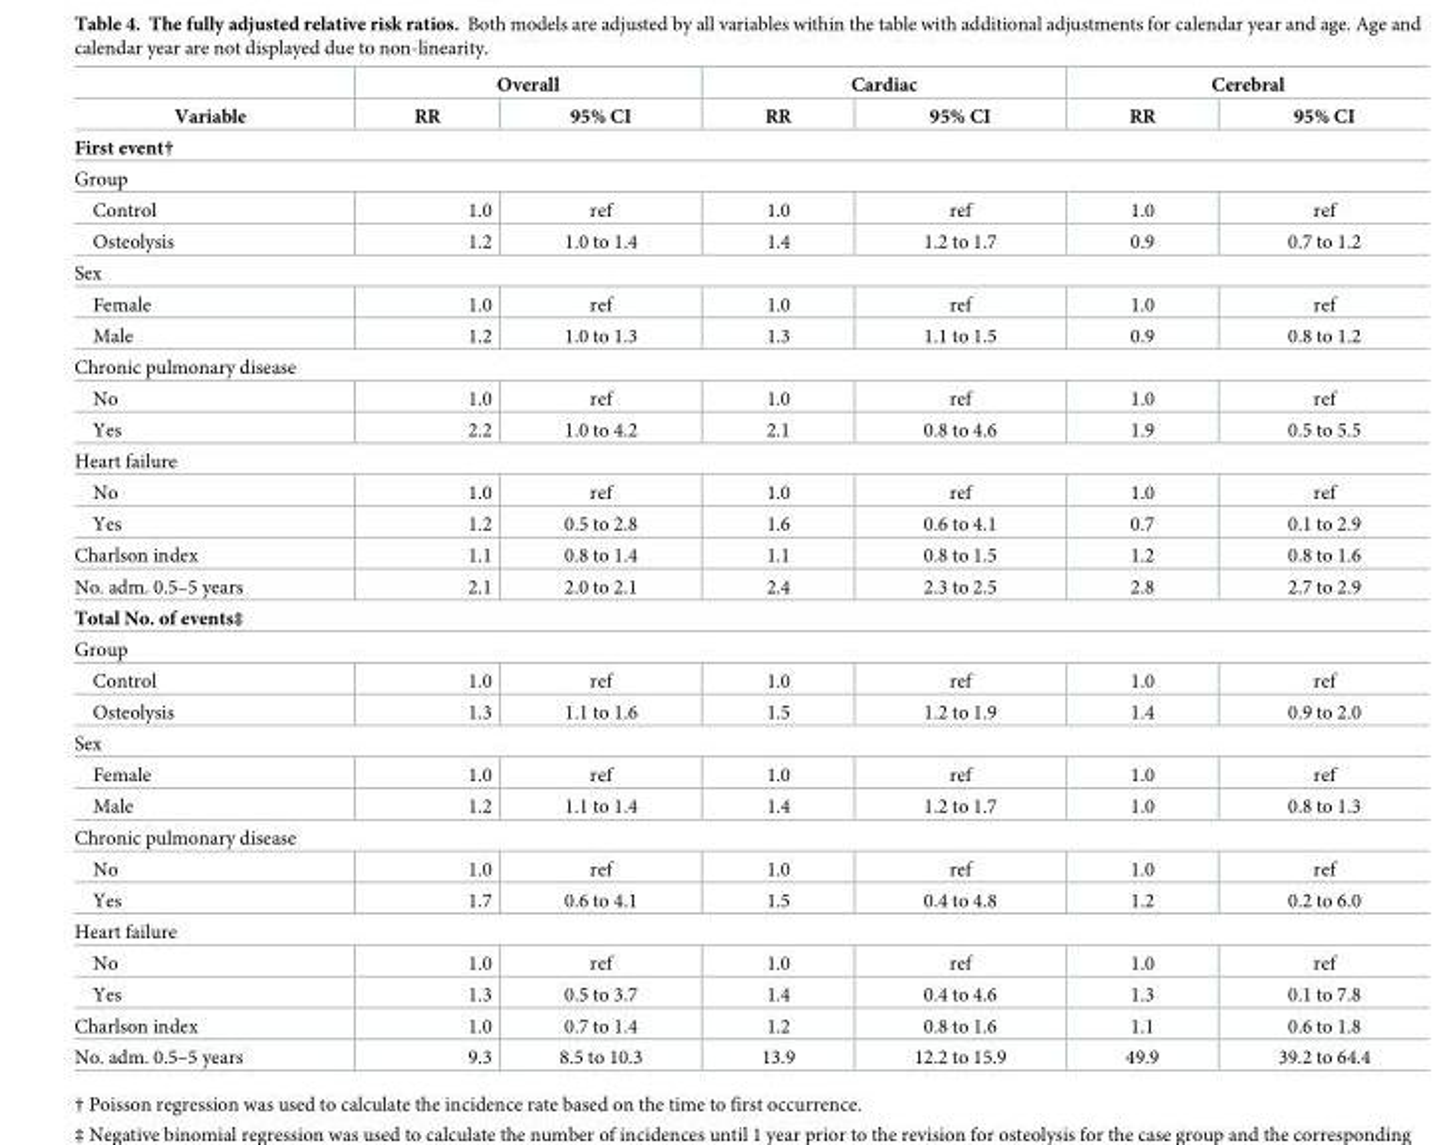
<table><thead><tr><td rowspan="2">Variable</td><td colspan="2">Overall</td><td colspan="2">Cardiac</td><td colspan="2">Cerebral</td></tr><tr><td>RR</td><td>95% CI</td><td>RR</td><td>95% CI</td><td>RR</td><td>95% CI</td></tr></thead><tbody><tr><td colspan="7">First event†</td></tr><tr><td colspan="7">Group</td></tr><tr><td>Control</td><td>1.0</td><td>ref</td><td>1.0</td><td>ref</td><td>1.0</td><td>ref</td></tr><tr><td>Osteolysis</td><td>1.2</td><td>1.0 to 1.4</td><td>1.4</td><td>1.2 to 1.7</td><td>0.9</td><td>0.7 to 1.2</td></tr><tr><td colspan="7">Sex</td></tr><tr><td>Female</td><td>1.0</td><td>ref</td><td>1.0</td><td>ref</td><td>1.0</td><td>ref</td></tr><tr><td>Male</td><td>1.2</td><td>1.0 to 1.3</td><td>1.3</td><td>1.1 to 1.5</td><td>0.9</td><td>0.8 to 1.2</td></tr><tr><td colspan="7">Chronic pulmonary disease</td></tr><tr><td>No</td><td>1.0</td><td>ref</td><td>1.0</td><td>ref</td><td>1.0</td><td>ref</td></tr><tr><td>Yes</td><td>2.2</td><td>1.0 to 4.2</td><td>2.1</td><td>0.8 to 4.6</td><td>1.9</td><td>0.5 to 5.5</td></tr><tr><td colspan="7">Heart failure</td></tr><tr><td>No</td><td>1.0</td><td>ref</td><td>1.0</td><td>ref</td><td>1.0</td><td>ref</td></tr><tr><td>Yes</td><td>1.2</td><td>0.5 to 2.8</td><td>1.6</td><td>0.6 to 4.1</td><td>0.7</td><td>0.1 to 2.9</td></tr><tr><td>Charlson index</td><td>1.1</td><td>0.8 to 1.4</td><td>1.1</td><td>0.8 to 1.5</td><td>1.2</td><td>0.8 to 1.6</td></tr><tr><td>No. adm. 0.5–5 years</td><td>2.1</td><td>2.0 to 2.1</td><td>2.4</td><td>2.3 to 2.5</td><td>2.8</td><td>2.7 to 2.9</td></tr><tr><td colspan="7">Total No. of events‡</td></tr><tr><td colspan="7">Group</td></tr><tr><td>Control</td><td>1.0</td><td>ref</td><td>1.0</td><td>ref</td><td>1.0</td><td>ref</td></tr><tr><td>Osteolysis</td><td>1.3</td><td>1.1 to 1.6</td><td>1.5</td><td>1.2 to 1.9</td><td>1.4</td><td>0.9 to 2.0</td></tr><tr><td colspan="7">Sex</td></tr><tr><td>Female</td><td>1.0</td><td>ref</td><td>1.0</td><td>ref</td><td>1.0</td><td>ref</td></tr><tr><td>Male</td><td>1.2</td><td>1.1 to 1.4</td><td>1.4</td><td>1.2 to 1.7</td><td>1.0</td><td>0.8 to 1.3</td></tr><tr><td colspan="7">Chronic pulmonary disease</td></tr><tr><td>No</td><td>1.0</td><td>ref</td><td>1.0</td><td>ref</td><td>1.0</td><td>ref</td></tr><tr><td>Yes</td><td>1.7</td><td>0.6 to 4.1</td><td>1.5</td><td>0.4 to 4.8</td><td>1.2</td><td>0.2 to 6.0</td></tr><tr><td colspan="7">Heart failure</td></tr><tr><td>No</td><td>1.0</td><td>ref</td><td>1.0</td><td>ref</td><td>1.0</td><td>ref</td></tr><tr><td>Yes</td><td>1.3</td><td>0.5 to 3.7</td><td>1.4</td><td>0.4 to 4.6</td><td>1.3</td><td>0.1 to 7.8</td></tr><tr><td>Charlson index</td><td>1.0</td><td>0.7 to 1.4</td><td>1.2</td><td>0.8 to 1.6</td><td>1.1</td><td>0.6 to 1.8</td></tr><tr><td>No. adm. 0.5–5 years</td><td>9.3</td><td>8.5 to 10.3</td><td>13.9</td><td>12.2 to 15.9</td><td>49.9</td><td>39.2 to 64.4</td></tr></tbody></table>